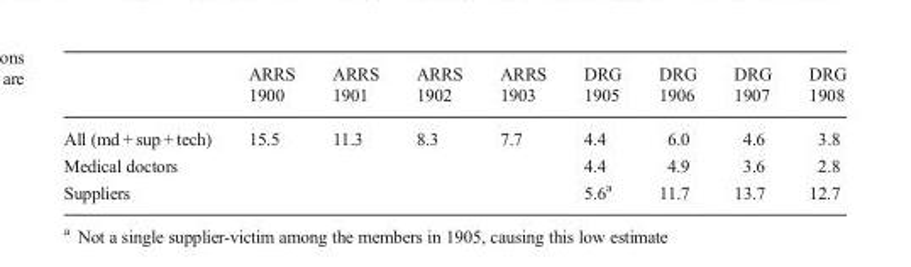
<table><thead><tr><td></td><td>ARRS 1900</td><td>ARRS 1901</td><td>ARRS 1902</td><td>ARRS 1903</td><td>DRG 1905</td><td>DRG 1906</td><td>DRG 1907</td><td>DRG 1908</td></tr></thead><tbody><tr><td>All (md + sup + tech)</td><td>15.5</td><td>11.3</td><td>8.3</td><td>7.7</td><td>4.4</td><td>6.0</td><td>4.6</td><td>3.8</td></tr><tr><td>Medical doctors</td><td></td><td></td><td></td><td></td><td>4.4</td><td>4.9</td><td>3.6</td><td>2.8</td></tr><tr><td>Suppliers</td><td></td><td></td><td></td><td></td><td>5.6<sup>a</sup></td><td>11.7</td><td>13.7</td><td>12.7</td></tr></tbody></table>